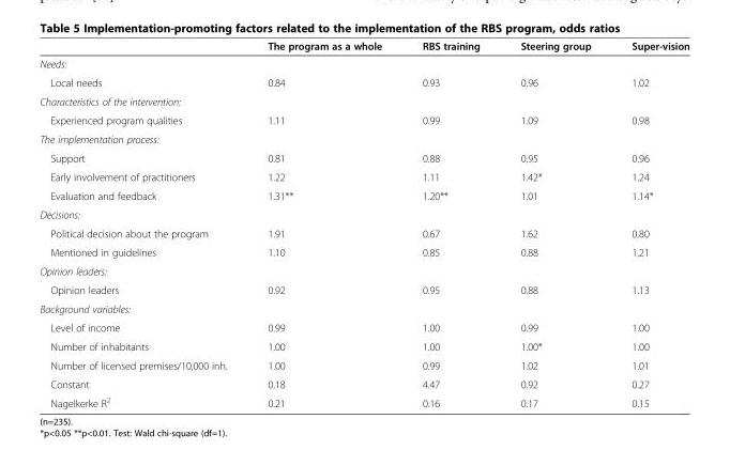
<table><thead><tr><td></td><td>The program as a whole</td><td>RBS training</td><td>Steering group</td><td>Super-vision</td></tr></thead><tbody><tr><td colspan="5">Needs:</td></tr><tr><td>Local needs</td><td>0.84</td><td>0.93</td><td>0.96</td><td>1.02</td></tr><tr><td colspan="5">Characteristics of the intervention:</td></tr><tr><td>Experienced program qualities</td><td>1.11</td><td>0.99</td><td>1.09</td><td>0.98</td></tr><tr><td colspan="5">The implementation process:</td></tr><tr><td>Support</td><td>0.81</td><td>0.88</td><td>0.95</td><td>0.96</td></tr><tr><td>Early involvement of practitioners</td><td>1.22</td><td>1.11</td><td>1.42*</td><td>1.24</td></tr><tr><td>Evaluation and feedback</td><td>1.31**</td><td>1.20**</td><td>1.01</td><td>1.14*</td></tr><tr><td colspan="5">Decisions:</td></tr><tr><td>Political decision about the program</td><td>1.91</td><td>0.67</td><td>1.62</td><td>0.80</td></tr><tr><td>Mentioned in guidelines</td><td>1.10</td><td>0.85</td><td>0.88</td><td>1.21</td></tr><tr><td colspan="5">Opinion leaders:</td></tr><tr><td>Opinion leaders</td><td>0.92</td><td>0.95</td><td>0.88</td><td>1.13</td></tr><tr><td colspan="5">Background variables:</td></tr><tr><td>Level of income</td><td>0.99</td><td>1.00</td><td>0.99</td><td>1.00</td></tr><tr><td>Number of inhabitants</td><td>1.00</td><td>1.00</td><td>1.00*</td><td>1.00</td></tr><tr><td>Number of licensed premises/10,000 inh.</td><td>1.00</td><td>0.99</td><td>1.02</td><td>1.01</td></tr><tr><td>Constant</td><td>0.18</td><td>4.47</td><td>0.92</td><td>0.27</td></tr><tr><td>Nagelkerke R<sup>2</sup></td><td>0.21</td><td>0.16</td><td>0.17</td><td>0.15</td></tr></tbody></table>